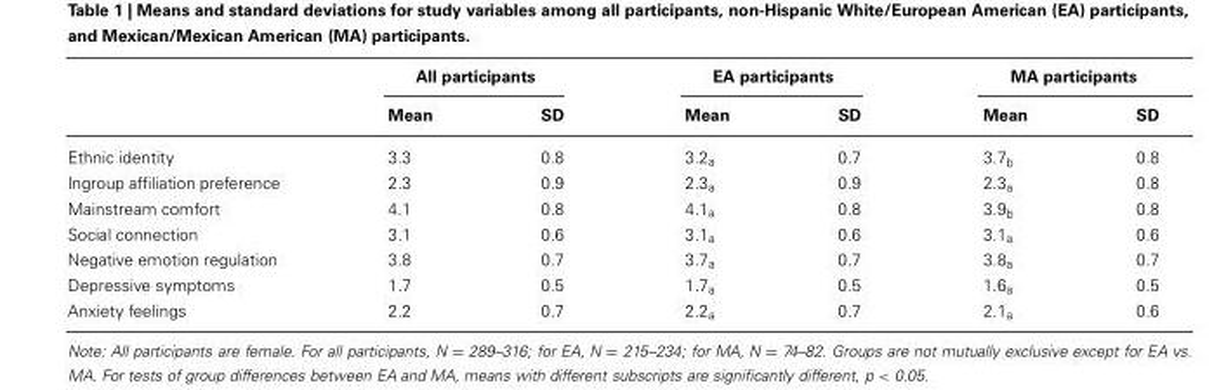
<table><thead><tr><td rowspan="2"></td><td colspan="2">All participants</td><td colspan="2">EA participants</td><td colspan="2">MA participants</td></tr><tr><td>Mean</td><td>SD</td><td>Mean</td><td>SD</td><td>Mean</td><td>SD</td></tr></thead><tbody><tr><td>Ethnic identity</td><td>3.3</td><td>0.8</td><td>3.2<sub>a</sub></td><td>0.7</td><td>3.7<sub>b</sub></td><td>0.8</td></tr><tr><td>Ingroup affiliation preference</td><td>2.3</td><td>0.9</td><td>2.3<sub>a</sub></td><td>0.9</td><td>2.3<sub>a</sub></td><td>0.8</td></tr><tr><td>Mainstream comfort</td><td>4.1</td><td>0.8</td><td>4.1<sub>a</sub></td><td>0.8</td><td>3.9<sub>b</sub></td><td>0.8</td></tr><tr><td>Social connection</td><td>3.1</td><td>0.6</td><td>3.1<sub>a</sub></td><td>0.6</td><td>3.1<sub>a</sub></td><td>0.6</td></tr><tr><td>Negative emotion regulation</td><td>3.8</td><td>0.7</td><td>3.7<sub>a</sub></td><td>0.7</td><td>3.8<sub>a</sub></td><td>0.7</td></tr><tr><td>Depressive symptoms</td><td>1.7</td><td>0.5</td><td>1.7<sub>a</sub></td><td>0.5</td><td>1.6<sub>a</sub></td><td>0.5</td></tr><tr><td>Anxiety feelings</td><td>2.2</td><td>0.7</td><td>2.2<sub>a</sub></td><td>0.7</td><td>2.1<sub>a</sub></td><td>0.6</td></tr></tbody></table>